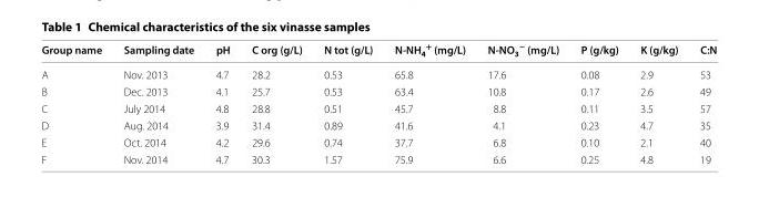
<table><thead><tr><td>Group name</td><td>Sampling date</td><td>pH</td><td>C org (g/L)</td><td>N tot (g/L)</td><td>N‑NH<sub>4</sub> <sup>+</sup> (mg/L)</td><td>N‑NO<sub>3</sub> <sup>−</sup> (mg/L)</td><td>P (g/kg)</td><td>K (g/kg)</td><td>C:N</td></tr></thead><tbody><tr><td>A</td><td>Nov. 2013</td><td>4.7</td><td>28.2</td><td>0.53</td><td>65.8</td><td>17.6</td><td>0.08</td><td>2.9</td><td>53</td></tr><tr><td>B</td><td>Dec. 2013</td><td>4.1</td><td>25.7</td><td>0.53</td><td>63.4</td><td>10.8</td><td>0.17</td><td>2.6</td><td>49</td></tr><tr><td>C</td><td>July 2014</td><td>4.8</td><td>28.8</td><td>0.51</td><td>45.7</td><td>8.8</td><td>0.11</td><td>3.5</td><td>57</td></tr><tr><td>D</td><td>Aug. 2014</td><td>3.9</td><td>31.4</td><td>0.89</td><td>41.6</td><td>4.1</td><td>0.23</td><td>4.7</td><td>35</td></tr><tr><td>E</td><td>Oct. 2014</td><td>4.2</td><td>29.6</td><td>0.74</td><td>37.7</td><td>6.8</td><td>0.10</td><td>2.1</td><td>40</td></tr><tr><td>F</td><td>Nov. 2014</td><td>4.7</td><td>30.3</td><td>1.57</td><td>75.9</td><td>6.6</td><td>0.25</td><td>4.8</td><td>19</td></tr></tbody></table>